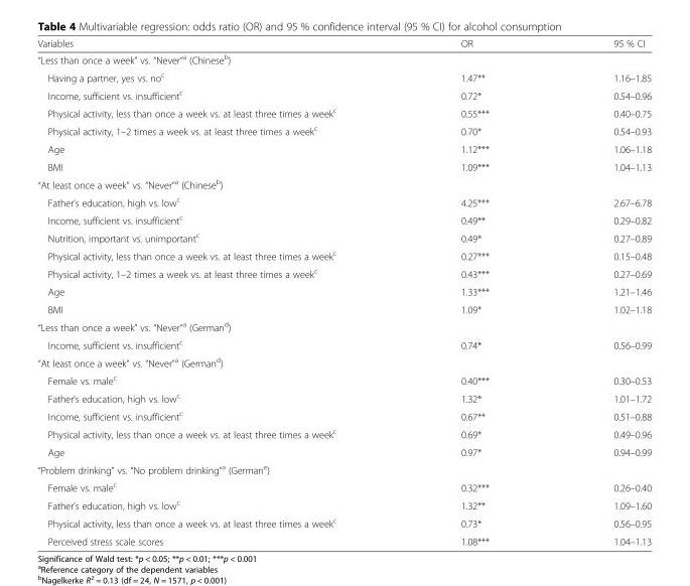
<table><thead><tr><td>Variables</td><td>OR</td><td>95 % CI</td></tr></thead><tbody><tr><td colspan="3">“Less than once a week” vs. “Never”<sup>a</sup> (Chinese<sup>b</sup>)</td></tr><tr><td>Having a partner, yes vs. no<sup>c</sup></td><td>1.47**</td><td>1.16–1.85</td></tr><tr><td>Income, sufficient vs. insufficient<sup>c</sup></td><td>0.72*</td><td>0.54–0.96</td></tr><tr><td>Physical activity, less than once a week vs. at least three times a week<sup>c</sup></td><td>0.55***</td><td>0.40–0.75</td></tr><tr><td>Physical activity, 1–2 times a week vs. at least three times a week<sup>c</sup></td><td>0.70*</td><td>0.54–0.93</td></tr><tr><td>Age</td><td>1.12***</td><td>1.06–1.18</td></tr><tr><td>BMI</td><td>1.09***</td><td>1.04–1.13</td></tr><tr><td colspan="3">“At least once a week” vs. “Never”<sup>a</sup> (Chinese<sup>b</sup>)</td></tr><tr><td>Father’s education, high vs. low<sup>c</sup></td><td>4.25***</td><td>2.67–6.78</td></tr><tr><td>Income, sufficient vs. insufficient<sup>c</sup></td><td>0.49**</td><td>0.29–0.82</td></tr><tr><td>Nutrition, important vs. unimportant<sup>c</sup></td><td>0.49*</td><td>0.27–0.89</td></tr><tr><td>Physical activity, less than once a week vs. at least three times a week<sup>c</sup></td><td>0.27***</td><td>0.15–0.48</td></tr><tr><td>Physical activity, 1–2 times a week vs. at least three times a week<sup>c</sup></td><td>0.43***</td><td>0.27–0.69</td></tr><tr><td>Age</td><td>1.33***</td><td>1.21–1.46</td></tr><tr><td>BMI</td><td>1.09*</td><td>1.02–1.18</td></tr><tr><td colspan="3">“Less than once a week” vs. “Never”<sup>a</sup> (German<sup>d</sup>)</td></tr><tr><td>Income, sufficient vs. insufficient<sup>c</sup></td><td>0.74*</td><td>0.56–0.99</td></tr><tr><td colspan="3">“At least once a week” vs. “Never”<sup>a</sup> (German<sup>d</sup>)</td></tr><tr><td>Female vs. male<sup>c</sup></td><td>0.40***</td><td>0.30–0.53</td></tr><tr><td>Father’s education, high vs. low<sup>c</sup></td><td>1.32*</td><td>1.01–1.72</td></tr><tr><td>Income, sufficient vs. insufficient<sup>c</sup></td><td>0.67**</td><td>0.51–0.88</td></tr><tr><td>Physical activity, less than once a week vs. at least three times a week<sup>c</sup></td><td>0.69*</td><td>0.49–0.96</td></tr><tr><td>Age</td><td>0.97*</td><td>0.94–0.99</td></tr><tr><td colspan="3">“Problem drinking” vs. “No problem drinking”<sup>a</sup> (German<sup>e</sup>)</td></tr><tr><td>Female vs. male<sup>c</sup></td><td>0.32***</td><td>0.26–0.40</td></tr><tr><td>Father’s education, high vs. low<sup>c</sup></td><td>1.32**</td><td>1.09–1.60</td></tr><tr><td>Physical activity, less than once a week vs. at least three times a week<sup>c</sup></td><td>0.73*</td><td>0.56–0.95</td></tr><tr><td>Perceived stress scale scores</td><td>1.08***</td><td>1.04–1.13</td></tr></tbody></table>